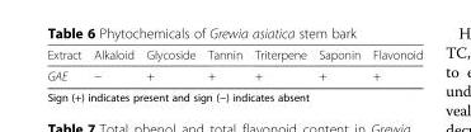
<table><thead><tr><td>Extract</td><td>Alkaloid</td><td>Glycoside</td><td>Tannin</td><td>Triterpene</td><td>Saponin</td><td>Flavonoid</td></tr></thead><tbody><tr><td>GAE</td><td>−</td><td>+</td><td>+</td><td>+</td><td>+</td><td>+</td></tr></tbody></table>